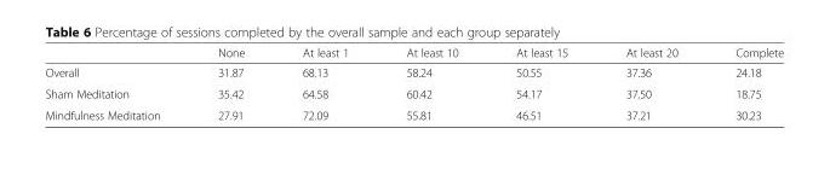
<table><thead><tr><td></td><td>None</td><td>At least 1</td><td>At least 10</td><td>At least 15</td><td>At least 20</td><td>Complete</td></tr></thead><tbody><tr><td>Overall</td><td>31.87</td><td>68.13</td><td>58.24</td><td>50.55</td><td>37.36</td><td>24.18</td></tr><tr><td>Sham Meditation</td><td>35.42</td><td>64.58</td><td>60.42</td><td>54.17</td><td>37.50</td><td>18.75</td></tr><tr><td>Mindfulness Meditation</td><td>27.91</td><td>72.09</td><td>55.81</td><td>46.51</td><td>37.21</td><td>30.23</td></tr></tbody></table>